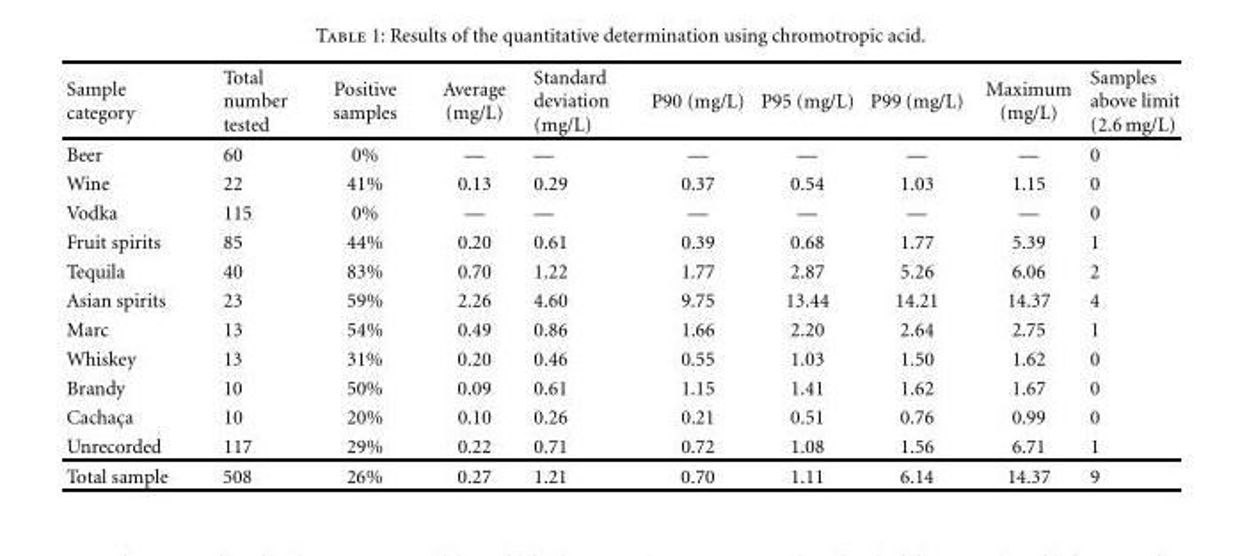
<table><thead><tr><td>Sample category</td><td>Total number tested</td><td>Positive samples</td><td>Average (mg/L)</td><td>Standard deviation (mg/L)</td><td>P90 (mg/L)</td><td>P95 (mg/L)</td><td>P99 (mg/L)</td><td>Maximum (mg/L)</td><td>Samples above limit (2.6 mg/L)</td></tr></thead><tbody><tr><td>Beer</td><td>60</td><td>0%</td><td>—</td><td>—</td><td>—</td><td>—</td><td>—</td><td>—</td><td>0</td></tr><tr><td>Wine</td><td>22</td><td>41%</td><td>0.13</td><td>0.29</td><td>0.37</td><td>0.54</td><td>1.03</td><td>1.15</td><td>0</td></tr><tr><td>Vodka</td><td>115</td><td>0%</td><td>—</td><td>—</td><td>—</td><td>—</td><td>—</td><td>—</td><td>0</td></tr><tr><td>Fruit spirits</td><td>85</td><td>44%</td><td>0.20</td><td>0.61</td><td>0.39</td><td>0.68</td><td>1.77</td><td>5.39</td><td>1</td></tr><tr><td>Tequila</td><td>40</td><td>83%</td><td>0.70</td><td>1.22</td><td>1.77</td><td>2.87</td><td>5.26</td><td>6.06</td><td>2</td></tr><tr><td>Asian spirits</td><td>23</td><td>59%</td><td>2.26</td><td>4.60</td><td>9.75</td><td>13.44</td><td>14.21</td><td>14.37</td><td>4</td></tr><tr><td>Marc</td><td>13</td><td>54%</td><td>0.49</td><td>0.86</td><td>1.66</td><td>2.20</td><td>2.64</td><td>2.75</td><td>1</td></tr><tr><td>Whiskey</td><td>13</td><td>31%</td><td>0.20</td><td>0.46</td><td>0.55</td><td>1.03</td><td>1.50</td><td>1.62</td><td>0</td></tr><tr><td>Brandy</td><td>10</td><td>50%</td><td>0.09</td><td>0.61</td><td>1.15</td><td>1.41</td><td>1.62</td><td>1.67</td><td>0</td></tr><tr><td>Cachac¸a</td><td>10</td><td>20%</td><td>0.10</td><td>0.26</td><td>0.21</td><td>0.51</td><td>0.76</td><td>0.99</td><td>0</td></tr><tr><td>Unrecorded</td><td>117</td><td>29%</td><td>0.22</td><td>0.71</td><td>0.72</td><td>1.08</td><td>1.56</td><td>6.71</td><td>1</td></tr><tr><td>Total sample</td><td>508</td><td>26%</td><td>0.27</td><td>1.21</td><td>0.70</td><td>1.11</td><td>6.14</td><td>14.37</td><td>9</td></tr></tbody></table>